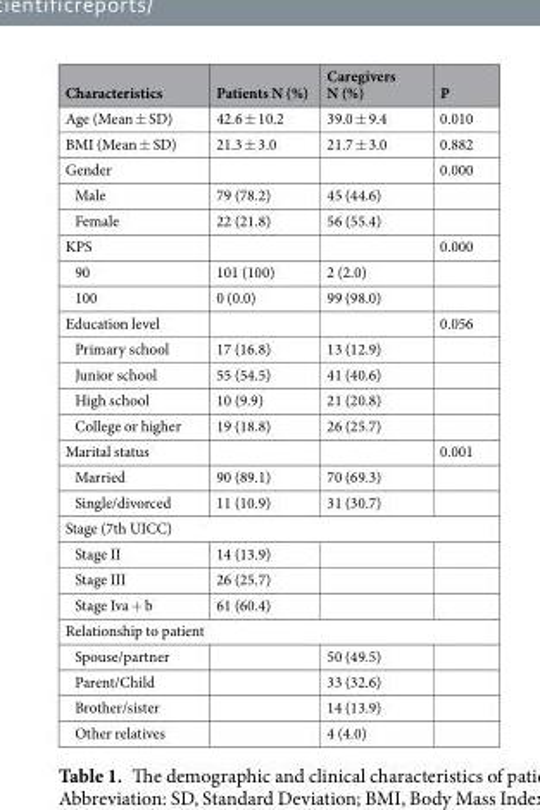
<table><thead><tr><td>Characteristics</td><td>Patients N (%)</td><td>Caregivers N (%)</td><td>P</td></tr></thead><tbody><tr><td>Age (Mean ± SD)</td><td>42.6 ± 10.2</td><td>39.0 ± 9.4</td><td>0.010</td></tr><tr><td>BMI (Mean ± SD)</td><td>21.3 ± 3.0</td><td>21.7 ± 3.0</td><td>0.882</td></tr><tr><td>Gender</td><td></td><td></td><td>0.000</td></tr><tr><td>Male</td><td>79 (78.2)</td><td>45 (44.6)</td><td></td></tr><tr><td>Female</td><td>22 (21.8)</td><td>56 (55.4)</td><td></td></tr><tr><td>KPS</td><td></td><td></td><td>0.000</td></tr><tr><td>90</td><td>101 (100)</td><td>2 (2.0)</td><td></td></tr><tr><td>100</td><td>0 (0.0)</td><td>99 (98.0)</td><td></td></tr><tr><td>Education level</td><td></td><td></td><td>0.056</td></tr><tr><td>Primary school</td><td>17 (16.8)</td><td>13 (12.9)</td><td></td></tr><tr><td>Junior school</td><td>55 (54.5)</td><td>41 (40.6)</td><td></td></tr><tr><td>High school</td><td>10 (9.9)</td><td>21 (20.8)</td><td></td></tr><tr><td>College or higher</td><td>19 (18.8)</td><td>26 (25.7)</td><td></td></tr><tr><td>Marital status</td><td></td><td></td><td>0.001</td></tr><tr><td>Married</td><td>90 (89.1)</td><td>70 (69.3)</td><td></td></tr><tr><td>Single/divorced</td><td>11 (10.9)</td><td>31 (30.7)</td><td></td></tr><tr><td colspan="4">Stage (7th UICC)</td></tr><tr><td>Stage II</td><td>14 (13.9)</td><td></td><td></td></tr><tr><td>Stage III</td><td>26 (25.7)</td><td></td><td></td></tr><tr><td>Stage Iva + b</td><td>61 (60.4)</td><td></td><td></td></tr><tr><td colspan="4">Relationship to patient</td></tr><tr><td>Spouse/partner</td><td></td><td>50 (49.5)</td><td></td></tr><tr><td>Parent/Child</td><td></td><td>33 (32.6)</td><td></td></tr><tr><td>Brother/sister</td><td></td><td>14 (13.9)</td><td></td></tr><tr><td>Other relatives</td><td></td><td>4 (4.0)</td><td></td></tr></tbody></table>